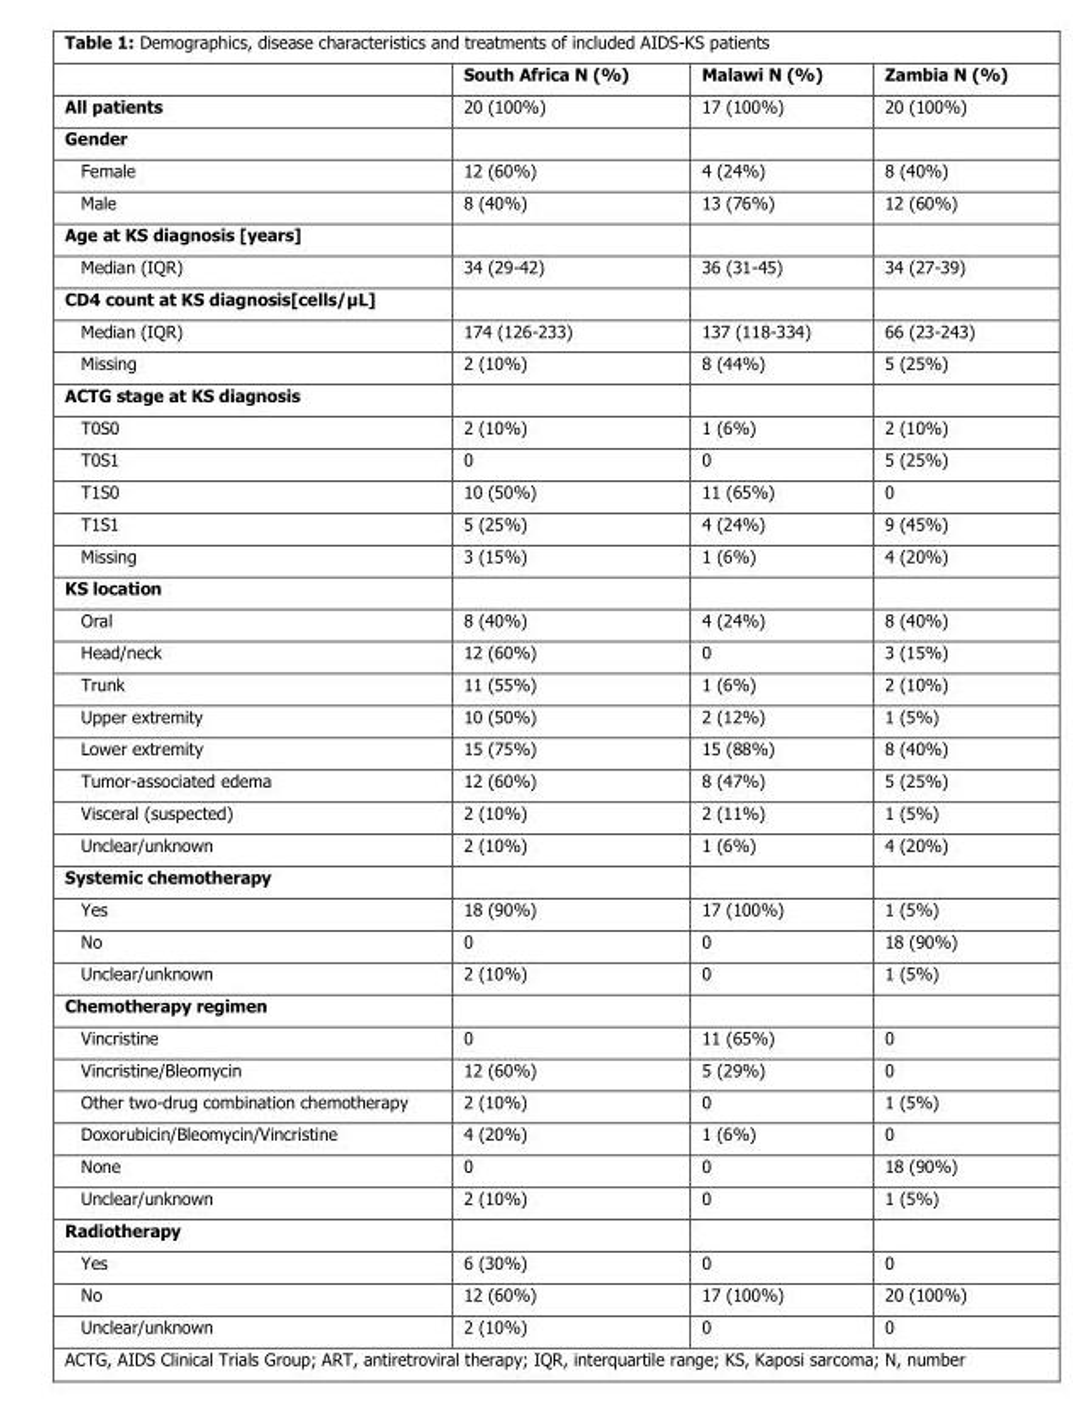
<table><thead><tr><td></td><td>South Africa N (%)</td><td>Malawi N (%)</td><td>Zambia N (%)</td></tr></thead><tbody><tr><td>All patients</td><td>20 (100%)</td><td>17 (100%)</td><td>20 (100%)</td></tr><tr><td colspan="4">Gender</td></tr><tr><td>Female</td><td>12 (60%)</td><td>4 (24%)</td><td>8 (40%)</td></tr><tr><td>Male</td><td>8 (40%)</td><td>13 (76%)</td><td>12 (60%)</td></tr><tr><td colspan="4">Age at KS diagnosis [years]</td></tr><tr><td>Median (IQR)</td><td>34 (29-42)</td><td>36 (31-45)</td><td>34 (27-39)</td></tr><tr><td colspan="4">CD4 count at KS diagnosis[cells/µL]</td></tr><tr><td>Median (IQR)</td><td>174 (126-233)</td><td>137 (118-334)</td><td>66 (23-243)</td></tr><tr><td>Missing</td><td>2 (10%)</td><td>8 (44%)</td><td>5 (25%)</td></tr><tr><td colspan="4">ACTG stage at KS diagnosis</td></tr><tr><td>T0S0</td><td>2 (10%)</td><td>1 (6%)</td><td>2 (10%)</td></tr><tr><td>T0S1</td><td>0</td><td>0</td><td>5 (25%)</td></tr><tr><td>T1S0</td><td>10 (50%)</td><td>11 (65%)</td><td>0</td></tr><tr><td>T1S1</td><td>5 (25%)</td><td>4 (24%)</td><td>9 (45%)</td></tr><tr><td>Missing</td><td>3 (15%)</td><td>1 (6%)</td><td>4 (20%)</td></tr><tr><td colspan="4">KS location</td></tr><tr><td>Oral</td><td>8 (40%)</td><td>4 (24%)</td><td>8 (40%)</td></tr><tr><td>Head/neck</td><td>12 (60%)</td><td>0</td><td>3 (15%)</td></tr><tr><td>Trunk</td><td>11 (55%)</td><td>1 (6%)</td><td>2 (10%)</td></tr><tr><td>Upper extremity</td><td>10 (50%)</td><td>2 (12%)</td><td>1 (5%)</td></tr><tr><td>Lower extremity</td><td>15 (75%)</td><td>15 (88%)</td><td>8 (40%)</td></tr><tr><td>Tumor-associated edema</td><td>12 (60%)</td><td>8 (47%)</td><td>5 (25%)</td></tr><tr><td>Visceral (suspected)</td><td>2 (10%)</td><td>2 (11%)</td><td>1 (5%)</td></tr><tr><td>Unclear/unknown</td><td>2 (10%)</td><td>1 (6%)</td><td>4 (20%)</td></tr><tr><td colspan="4">Systemic chemotherapy</td></tr><tr><td>Yes</td><td>18 (90%)</td><td>17 (100%)</td><td>1 (5%)</td></tr><tr><td>No</td><td>0</td><td>0</td><td>18 (90%)</td></tr><tr><td>Unclear/unknown</td><td>2 (10%)</td><td>0</td><td>1 (5%)</td></tr><tr><td colspan="4">Chemotherapy regimen</td></tr><tr><td>Vincristine</td><td>0</td><td>11 (65%)</td><td>0</td></tr><tr><td>Vincristine/Bleomycin</td><td>12 (60%)</td><td>5 (29%)</td><td>0</td></tr><tr><td>Other two-drug combination chemotherapy</td><td>2 (10%)</td><td>0</td><td>1 (5%)</td></tr><tr><td>Doxorubicin/Bleomycin/Vincristine</td><td>4 (20%)</td><td>1 (6%)</td><td>0</td></tr><tr><td>None</td><td>0</td><td>0</td><td>18 (90%)</td></tr><tr><td>Unclear/unknown</td><td>2 (10%)</td><td>0</td><td>1 (5%)</td></tr><tr><td colspan="4">Radiotherapy</td></tr><tr><td>Yes</td><td>6 (30%)</td><td>0</td><td>0</td></tr><tr><td>No</td><td>12 (60%)</td><td>17 (100%)</td><td>20 (100%)</td></tr><tr><td>Unclear/unknown</td><td>2 (10%)</td><td>0</td><td>0</td></tr></tbody></table>